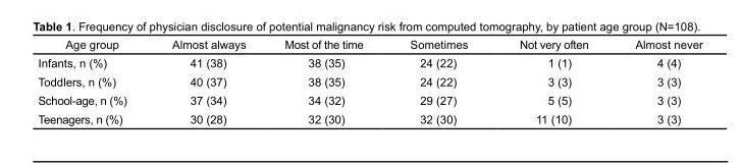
<table><thead><tr><td>Age group</td><td>Almost always</td><td>Most of the time</td><td>Sometimes</td><td>Not very often</td><td>Almost never</td></tr></thead><tbody><tr><td>Infants, n (%)</td><td>41 (38)</td><td>38 (35)</td><td>24 (22)</td><td>1 (1)</td><td>4 (4)</td></tr><tr><td>Toddlers, n (%)</td><td>40 (37)</td><td>38 (35)</td><td>24 (22)</td><td>3 (3)</td><td>3 (3)</td></tr><tr><td>School-age, n (%)</td><td>37 (34)</td><td>34 (32)</td><td>29 (27)</td><td>5 (5)</td><td>3 (3)</td></tr><tr><td>Teenagers, n (%)</td><td>30 (28)</td><td>32 (30)</td><td>32 (30)</td><td>11 (10)</td><td>3 (3)</td></tr></tbody></table>